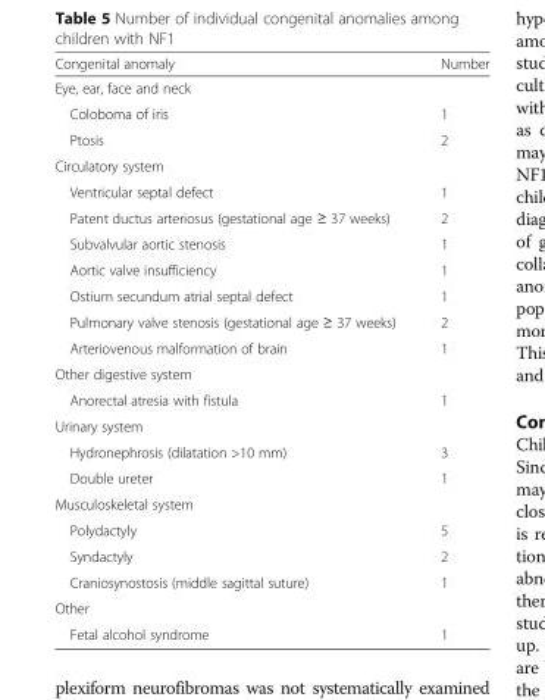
<table><thead><tr><td>Congenital anomaly</td><td>Number</td></tr></thead><tbody><tr><td colspan="2">Eye, ear, face and neck</td></tr><tr><td>Coloboma of iris</td><td>1</td></tr><tr><td>Ptosis</td><td>2</td></tr><tr><td colspan="2">Circulatory system</td></tr><tr><td>Ventricular septal defect</td><td>1</td></tr><tr><td>Patent ductus arteriosus (gestational age ≥ 37 weeks)</td><td>2</td></tr><tr><td>Subvalvular aortic stenosis</td><td>1</td></tr><tr><td>Aortic valve insufficiency</td><td>1</td></tr><tr><td>Ostium secundum atrial septal defect</td><td>1</td></tr><tr><td>Pulmonary valve stenosis (gestational age ≥ 37 weeks)</td><td>2</td></tr><tr><td>Arteriovenous malformation of brain</td><td>1</td></tr><tr><td colspan="2">Other digestive system</td></tr><tr><td>Anorectal atresia with fistula</td><td>1</td></tr><tr><td colspan="2">Urinary system</td></tr><tr><td>Hydronephrosis (dilatation &gt;10 mm)</td><td>3</td></tr><tr><td>Double ureter</td><td>1</td></tr><tr><td colspan="2">Musculoskeletal system</td></tr><tr><td>Polydactyly</td><td>5</td></tr><tr><td>Syndactyly</td><td>2</td></tr><tr><td>Craniosynostosis (middle sagittal suture)</td><td>1</td></tr><tr><td colspan="2">Other</td></tr><tr><td>Fetal alcohol syndrome</td><td>1</td></tr></tbody></table>